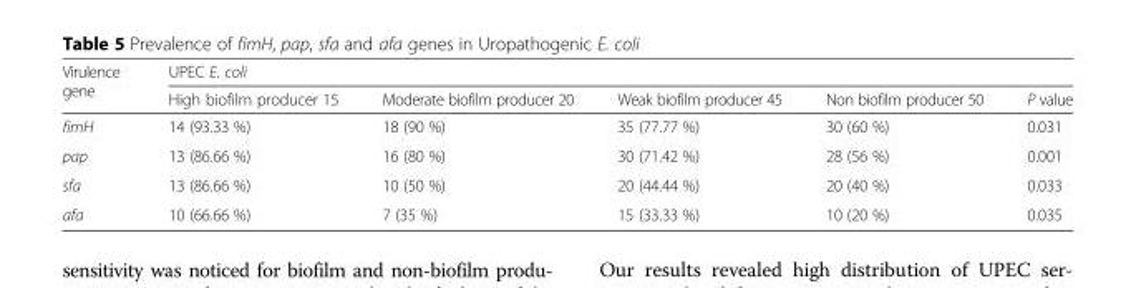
<table><thead><tr><td rowspan="2">Virulence gene</td><td colspan="5">UPEC E. coli</td></tr><tr><td>High biofilm producer 15</td><td>Moderate biofilm producer 20</td><td>Weak biofilm producer 45</td><td>Non biofilm producer 50</td><td>P value</td></tr></thead><tbody><tr><td>fimH</td><td>14 (93.33 %)</td><td>18 (90 %)</td><td>35 (77.77 %)</td><td>30 (60 %)</td><td>0.031</td></tr><tr><td>pap</td><td>13 (86.66 %)</td><td>16 (80 %)</td><td>30 (71.42 %)</td><td>28 (56 %)</td><td>0.001</td></tr><tr><td>sfa</td><td>13 (86.66 %)</td><td>10 (50 %)</td><td>20 (44.44 %)</td><td>20 (40 %)</td><td>0.033</td></tr><tr><td>afa</td><td>10 (66.66 %)</td><td>7 (35 %)</td><td>15 (33.33 %)</td><td>10 (20 %)</td><td>0.035</td></tr></tbody></table>